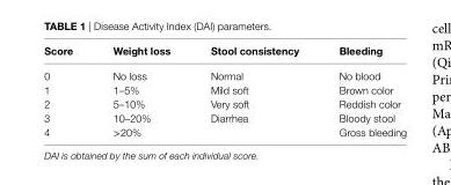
<table><thead><tr><td>score</td><td>Weight loss</td><td>stool consistency</td><td>Bleeding</td></tr></thead><tbody><tr><td>0</td><td>No loss</td><td>Normal</td><td>No blood</td></tr><tr><td>1</td><td>1–5%</td><td>Mild soft</td><td>Brown color</td></tr><tr><td>2</td><td>5–10%</td><td>Very soft</td><td>Reddish color</td></tr><tr><td>3</td><td>10–20%</td><td>Diarrhea</td><td>Bloody stool</td></tr><tr><td>4</td><td>&gt;20%</td><td></td><td>Gross bleeding</td></tr></tbody></table>